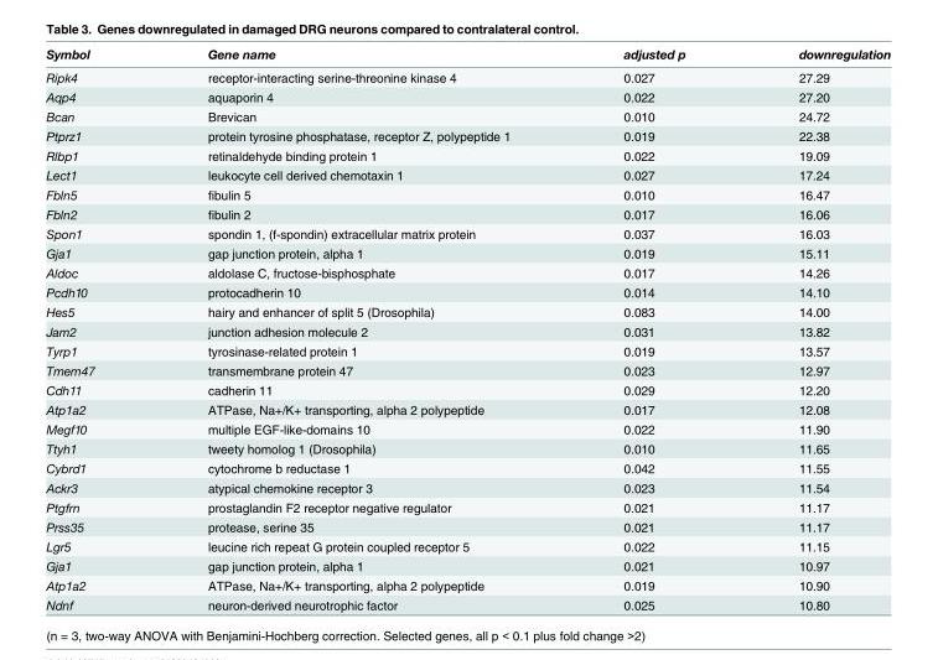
<table><thead><tr><td>Symbol</td><td>Gene name</td><td>adjusted p</td><td>downregulation</td></tr></thead><tbody><tr><td>Ripk4</td><td>receptor-interacting serine-threonine kinase 4</td><td>0.027</td><td>27.29</td></tr><tr><td>Aqp4</td><td>aquaporin 4</td><td>0.022</td><td>27.20</td></tr><tr><td>Bcan</td><td>Brevican</td><td>0.010</td><td>24.72</td></tr><tr><td>Ptprz1</td><td>protein tyrosine phosphatase, receptor Z, polypeptide 1</td><td>0.019</td><td>22.38</td></tr><tr><td>Rlbp1</td><td>retinaldehyde binding protein 1</td><td>0.022</td><td>19.09</td></tr><tr><td>Lect1</td><td>leukocyte cell derived chemotaxin 1</td><td>0.027</td><td>17.24</td></tr><tr><td>Fbln5</td><td>fibulin 5</td><td>0.010</td><td>16.47</td></tr><tr><td>Fbln2</td><td>fibulin 2</td><td>0.017</td><td>16.06</td></tr><tr><td>Spon1</td><td>spondin 1, (f-spondin) extracellular matrix protein</td><td>0.037</td><td>16.03</td></tr><tr><td>Gja1</td><td>gap junction protein, alpha 1</td><td>0.019</td><td>15.11</td></tr><tr><td>Aldoc</td><td>aldolase C, fructose-bisphosphate</td><td>0.017</td><td>14.26</td></tr><tr><td>Pcdh10</td><td>protocadherin 10</td><td>0.014</td><td>14.10</td></tr><tr><td>Hes5</td><td>hairy and enhancer of split 5 (Drosophila)</td><td>0.083</td><td>14.00</td></tr><tr><td>Jam2</td><td>junction adhesion molecule 2</td><td>0.031</td><td>13.82</td></tr><tr><td>Tyrp1</td><td>tyrosinase-related protein 1</td><td>0.019</td><td>13.57</td></tr><tr><td>Tmem47</td><td>transmembrane protein 47</td><td>0.023</td><td>12.97</td></tr><tr><td>Cdh11</td><td>cadherin 11</td><td>0.029</td><td>12.20</td></tr><tr><td>Atp1a2</td><td>ATPase, Na+/K+ transporting, alpha 2 polypeptide</td><td>0.017</td><td>12.08</td></tr><tr><td>Megf10</td><td>multiple EGF-like-domains 10</td><td>0.022</td><td>11.90</td></tr><tr><td>Ttyh1</td><td>tweety homolog 1 (Drosophila)</td><td>0.010</td><td>11.65</td></tr><tr><td>Cybrd1</td><td>cytochrome b reductase 1</td><td>0.042</td><td>11.55</td></tr><tr><td>Ackr3</td><td>atypical chemokine receptor 3</td><td>0.023</td><td>11.54</td></tr><tr><td>Ptgfrn</td><td>prostaglandin F2 receptor negative regulator</td><td>0.021</td><td>11.17</td></tr><tr><td>Prss35</td><td>protease, serine 35</td><td>0.021</td><td>11.17</td></tr><tr><td>Lgr5</td><td>leucine rich repeat G protein coupled receptor 5</td><td>0.022</td><td>11.15</td></tr><tr><td>Gja1</td><td>gap junction protein, alpha 1</td><td>0.021</td><td>10.97</td></tr><tr><td>Atp1a2</td><td>ATPase, Na+/K+ transporting, alpha 2 polypeptide</td><td>0.019</td><td>10.90</td></tr><tr><td>Ndnf</td><td>neuron-derived neurotrophic factor</td><td>0.025</td><td>10.80</td></tr></tbody></table>